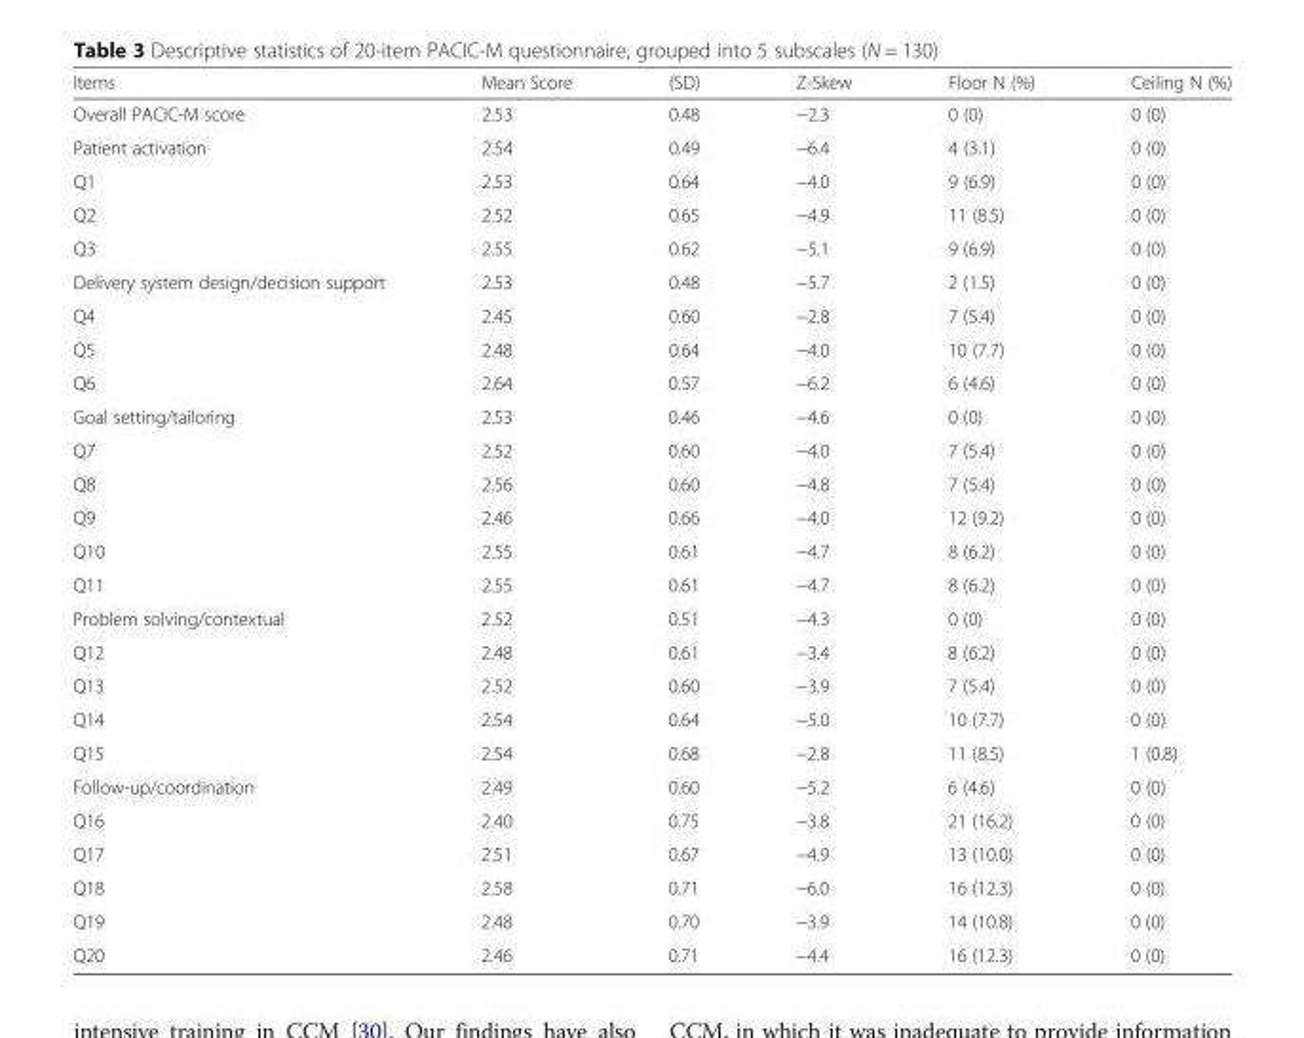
<table><thead><tr><td>Items</td><td>Mean Score</td><td>(SD)</td><td>Z-Skew</td><td>Floor N (%)</td><td>Ceiling N (%)</td></tr></thead><tbody><tr><td>Overall PACIC-M score</td><td>2.53</td><td>0.48</td><td>−2.3</td><td>0 (0)</td><td>0 (0)</td></tr><tr><td>Patient activation</td><td>2.54</td><td>0.49</td><td>−6.4</td><td>4 (3.1)</td><td>0 (0)</td></tr><tr><td>Q1</td><td>2.53</td><td>0.64</td><td>−4.0</td><td>9 (6.9)</td><td>0 (0)</td></tr><tr><td>Q2</td><td>2.52</td><td>0.65</td><td>−4.9</td><td>11 (8.5)</td><td>0 (0)</td></tr><tr><td>Q3</td><td>2.55</td><td>0.62</td><td>−5.1</td><td>9 (6.9)</td><td>0 (0)</td></tr><tr><td>Delivery system design/decision support</td><td>2.53</td><td>0.48</td><td>−5.7</td><td>2 (1.5)</td><td>0 (0)</td></tr><tr><td>Q4</td><td>2.45</td><td>0.60</td><td>−2.8</td><td>7 (5.4)</td><td>0 (0)</td></tr><tr><td>Q5</td><td>2.48</td><td>0.64</td><td>−4.0</td><td>10 (7.7)</td><td>0 (0)</td></tr><tr><td>Q6</td><td>2.64</td><td>0.57</td><td>−6.2</td><td>6 (4.6)</td><td>0 (0)</td></tr><tr><td>Goal setting/tailoring</td><td>2.53</td><td>0.46</td><td>−4.6</td><td>0 (0)</td><td>0 (0)</td></tr><tr><td>Q7</td><td>2.52</td><td>0.60</td><td>−4.0</td><td>7 (5.4)</td><td>0 (0)</td></tr><tr><td>Q8</td><td>2.56</td><td>0.60</td><td>−4.8</td><td>7 (5.4)</td><td>0 (0)</td></tr><tr><td>Q9</td><td>2.46</td><td>0.66</td><td>−4.0</td><td>12 (9.2)</td><td>0 (0)</td></tr><tr><td>Q10</td><td>2.55</td><td>0.61</td><td>−4.7</td><td>8 (6.2)</td><td>0 (0)</td></tr><tr><td>Q11</td><td>2.55</td><td>0.61</td><td>−4.7</td><td>8 (6.2)</td><td>0 (0)</td></tr><tr><td>Problem solving/contextual</td><td>2.52</td><td>0.51</td><td>−4.3</td><td>0 (0)</td><td>0 (0)</td></tr><tr><td>Q12</td><td>2.48</td><td>0.61</td><td>−3.4</td><td>8 (6.2)</td><td>0 (0)</td></tr><tr><td>Q13</td><td>2.52</td><td>0.60</td><td>−3.9</td><td>7 (5.4)</td><td>0 (0)</td></tr><tr><td>Q14</td><td>2.54</td><td>0.64</td><td>−5.0</td><td>10 (7.7)</td><td>0 (0)</td></tr><tr><td>Q15</td><td>2.54</td><td>0.68</td><td>−2.8</td><td>11 (8.5)</td><td>1 (0.8)</td></tr><tr><td>Follow-up/coordination</td><td>2.49</td><td>0.60</td><td>−5.2</td><td>6 (4.6)</td><td>0 (0)</td></tr><tr><td>Q16</td><td>2.40</td><td>0.75</td><td>−3.8</td><td>21 (16.2)</td><td>0 (0)</td></tr><tr><td>Q17</td><td>2.51</td><td>0.67</td><td>−4.9</td><td>13 (10.0)</td><td>0 (0)</td></tr><tr><td>Q18</td><td>2.58</td><td>0.71</td><td>−6.0</td><td>16 (12.3)</td><td>0 (0)</td></tr><tr><td>Q19</td><td>2.48</td><td>0.70</td><td>−3.9</td><td>14 (10.8)</td><td>0 (0)</td></tr><tr><td>Q20</td><td>2.46</td><td>0.71</td><td>−4.4</td><td>16 (12.3)</td><td>0 (0)</td></tr></tbody></table>